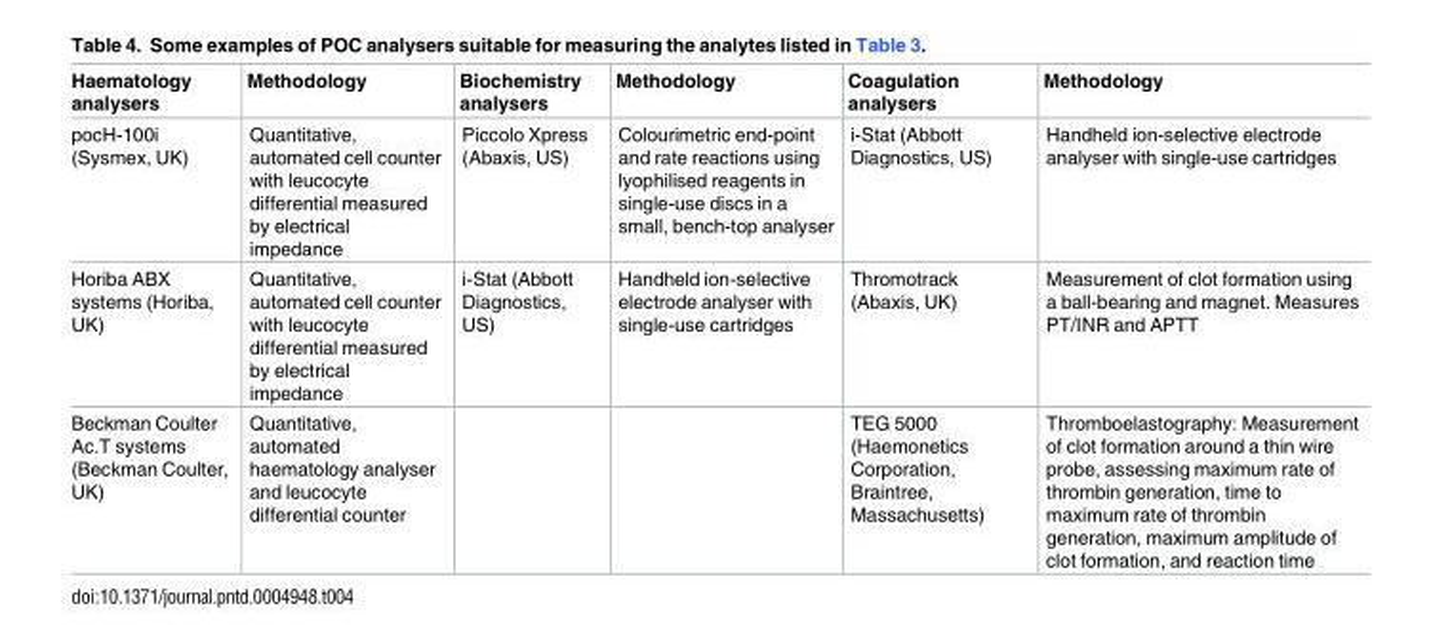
<table><thead><tr><td>Haematology analysers</td><td>Methodology</td><td>Biochemistry analysers</td><td>Methodology</td><td>Coagulation analysers</td><td>Methodology</td></tr></thead><tbody><tr><td>pocH-100i (Sysmex, UK)</td><td>Quantitative, automated cell counter with leucocyte differential measured by electrical impedance</td><td>Piccolo Xpress (Abaxis, US)</td><td>Colourimetric end-point and rate reactions using lyophilised reagents in single-use discs in a small, bench-top analyser</td><td>i-Stat (Abbott Diagnostics, US)</td><td>Handheld ion-selective electrode analyser with single-use cartridges</td></tr><tr><td>Horiba ABX systems (Horiba, UK)</td><td>Quantitative, automated cell counter with leucocyte differential measured by electrical impedance</td><td>i-Stat (Abbott Diagnostics, US)</td><td>Handheld ion-selective electrode analyser with single-use cartridges</td><td>Thromotrack (Abaxis, UK)</td><td>Measurement of clot formation using a ball-bearing and magnet. Measures PT/INR and APTT</td></tr><tr><td>Beckman Coulter Ac.T systems (Beckman Coulter, UK)</td><td>Quantitative, automated haematology analyser and leucocyte differential counter</td><td></td><td></td><td>TEG 5000 (Haemonetics Corporation, Braintree, Massachusetts)</td><td>Thromboelastography: Measurement of clot formation around a thin wire probe, assessing maximum rate of thrombin generation, time to maximum rate of thrombin generation, maximum amplitude of clot formation, and reaction time</td></tr></tbody></table>